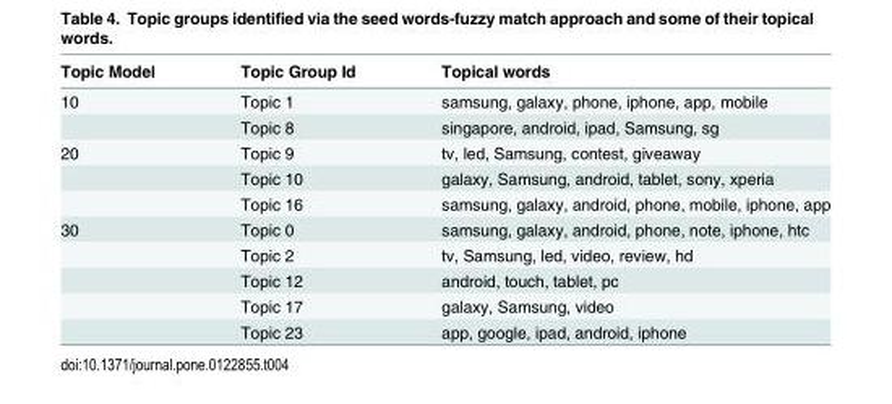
<table><thead><tr><td>Topic Model</td><td>Topic Group Id</td><td>Topical words</td></tr></thead><tbody><tr><td rowspan="2">10</td><td>Topic 1</td><td>samsung, galaxy, phone, iphone, app, mobile</td></tr><tr><td>Topic 8</td><td>singapore, android, ipad, Samsung, sg</td></tr><tr><td rowspan="3">20</td><td>Topic 9</td><td>tv, led, Samsung, contest, giveaway</td></tr><tr><td>Topic 10</td><td>galaxy, Samsung, android, tablet, sony, xperia</td></tr><tr><td>Topic 16</td><td>samsung, galaxy, android, phone, mobile, iphone, app</td></tr><tr><td rowspan="5">30</td><td>Topic 0</td><td>samsung, galaxy, android, phone, note, iphone, htc</td></tr><tr><td>Topic 2</td><td>tv, Samsung, led, video, review, hd</td></tr><tr><td>Topic 12</td><td>android, touch, tablet, pc</td></tr><tr><td>Topic 17</td><td>galaxy, Samsung, video</td></tr><tr><td>Topic 23</td><td>app, google, ipad, android, iphone</td></tr></tbody></table>